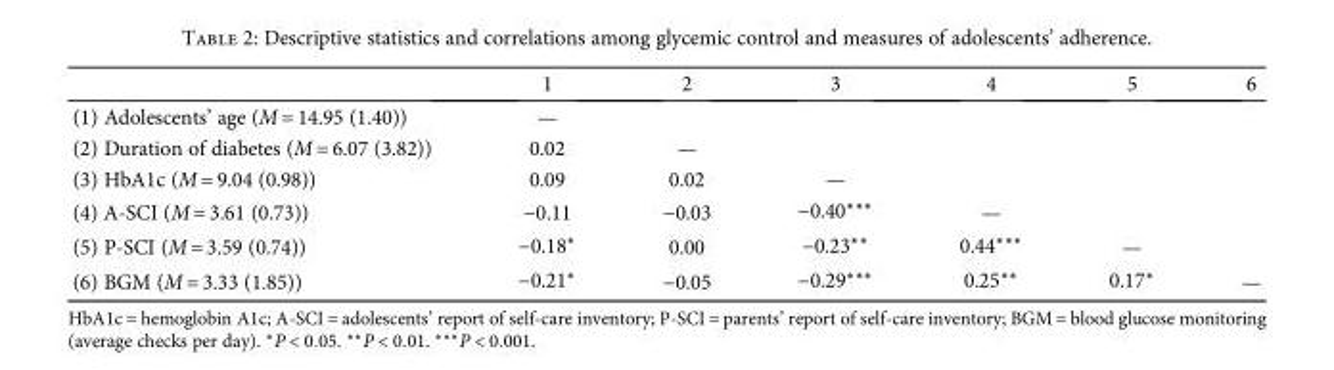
<table><thead><tr><td></td><td>1</td><td>2</td><td>3</td><td>4</td><td>5</td><td>6</td></tr></thead><tbody><tr><td>(1) Adolescents’ age (M = 14.95 (1.40))</td><td>—</td><td></td><td></td><td></td><td></td><td></td></tr><tr><td>(2) Duration of diabetes (M = 6.07 (3.82))</td><td>0.02</td><td>—</td><td></td><td></td><td></td><td></td></tr><tr><td>(3) HbA1c (M = 9.04 (0.98))</td><td>0.09</td><td>0.02</td><td>—</td><td></td><td></td><td></td></tr><tr><td>(4) A-SCI (M = 3.61 (0.73))</td><td>−0.11</td><td>−0.03</td><td>−0.40∗∗∗</td><td>—</td><td></td><td></td></tr><tr><td>(5) P-SCI (M = 3.59 (0.74))</td><td>−0.18∗</td><td>0.00</td><td>−0.23∗∗</td><td>0.44∗∗∗</td><td>—</td><td></td></tr><tr><td>(6) BGM (M = 3.33 (1.85))</td><td>−0.21∗</td><td>−0.05</td><td>−0.29∗∗∗</td><td>0.25∗∗</td><td>0.17∗</td><td>—</td></tr></tbody></table>